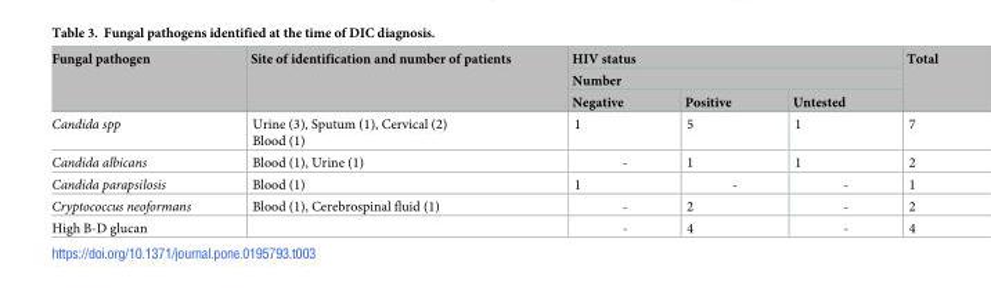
<table><thead><tr><td rowspan="3">Fungal pathogen</td><td rowspan="3">Site of identification and number of patients</td><td rowspan="2" colspan="3">HIV status Number</td><td rowspan="3">Total</td></tr><tr></tr><tr><td>Negative</td><td>Positive</td><td>Untested</td></tr></thead><tbody><tr><td>Candida spp</td><td>Urine (3), Sputum (1), Cervical (2) Blood (1)</td><td>1</td><td>5</td><td>1</td><td>7</td></tr><tr><td>Candida albicans</td><td>Blood (1), Urine (1)</td><td>-</td><td>1</td><td>1</td><td>2</td></tr><tr><td>Candida parapsilosis</td><td>Blood (1)</td><td>1</td><td>-</td><td>-</td><td>1</td></tr><tr><td>Cryptococcus neoformans</td><td>Blood (1), Cerebrospinal fluid (1)</td><td>-</td><td>2</td><td>-</td><td>2</td></tr><tr><td>High B-D glucan</td><td></td><td>-</td><td>4</td><td>-</td><td>4</td></tr></tbody></table>